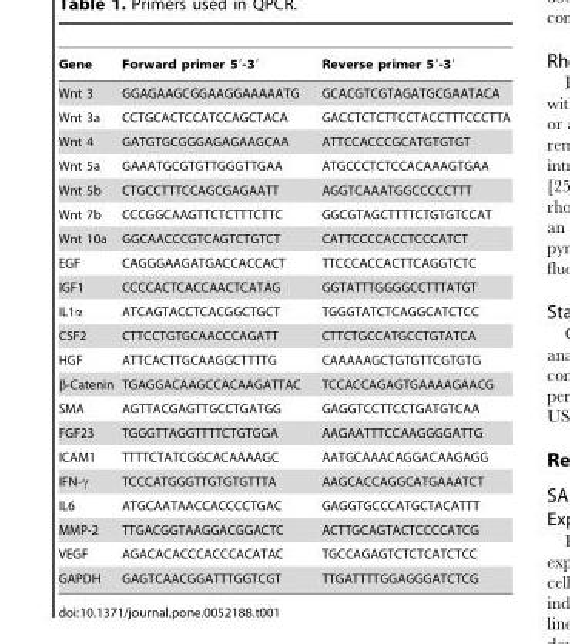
<table><thead><tr><td>Gene</td><td>Forward primer 5′-3′</td><td>Reverse primer 5′-3′</td></tr></thead><tbody><tr><td>Wnt 3</td><td>GGAGAAGCGGAAGGAAAAATG</td><td>GCACGTCGTAGATGCGAATACA</td></tr><tr><td>Wnt 3a</td><td>CCTGCACTCCATCCAGCTACA</td><td>GACCTCTCTTCCTACCTTTCCCTTA</td></tr><tr><td>Wnt 4</td><td>GATGTGCGGGAGAGAAGCAA</td><td>ATTCCACCCGCATGTGTGT</td></tr><tr><td>Wnt 5a</td><td>GAAATGCGTGTTGGGTTGAA</td><td>ATGCCCTCTCCACAAAGTGAA</td></tr><tr><td>Wnt 5b</td><td>CTGCCTTTCCAGCGAGAATT</td><td>AGGTCAAATGGCCCCCTTT</td></tr><tr><td>Wnt 7b</td><td>CCCGGCAAGTTCTCTTTCTTC</td><td>GGCGTAGCTTTTCTGTGTCCAT</td></tr><tr><td>Wnt 10a</td><td>GGCAACCCGTCAGTCTGTCT</td><td>CATTCCCCACCTCCCATCT</td></tr><tr><td>EGF</td><td>CAGGGAAGATGACCACCACT</td><td>TTCCCACCACTTCAGGTCTC</td></tr><tr><td>IGF1</td><td>CCCCACTCACCAACTCATAG</td><td>GGTATTTGGGGCCTTTATGT</td></tr><tr><td>IL1α</td><td>ATCAGTACCTCACGGCTGCT</td><td>TGGGTATCTCAGGCATCTCC</td></tr><tr><td>CSF2</td><td>CTTCCTGTGCAACCCAGATT</td><td>CTTCTGCCATGCCTGTATCA</td></tr><tr><td>HGF</td><td>ATTCACTTGCAAGGCTTTTG</td><td>CAAAAAGCTGTGTTCGTGTG</td></tr><tr><td>β-Catenin</td><td>TGAGGACAAGCCACAAGATTAC</td><td>TCCACCAGAGTGAAAAGAACG</td></tr><tr><td>SMA</td><td>AGTTACGAGTTGCCTGATGG</td><td>GAGGTCCTTCCTGATGTCAA</td></tr><tr><td>FGF23</td><td>TGGGTTAGGTTTTCTGTGGA</td><td>AAGAATTTCCAAGGGGATTG</td></tr><tr><td>ICAM1</td><td>TTTTCTATCGGCACAAAAGC</td><td>AATGCAAACAGGACAAGAGG</td></tr><tr><td>IFN-γ</td><td>TCCCATGGGTTGTGTGTTTA</td><td>AAGCACCAGGCATGAAATCT</td></tr><tr><td>IL6</td><td>ATGCAATAACCACCCCTGAC</td><td>GAGGTGCCCATGCTACATTT</td></tr><tr><td>MMP-2</td><td>TTGACGGTAAGGACGGACTC</td><td>ACTTGCAGTACTCCCCATCG</td></tr><tr><td>VEGF</td><td>AGACACACCCACCCACATAC</td><td>TGCCAGAGTCTCTCATCTCC</td></tr><tr><td>GAPDH</td><td>GAGTCAACGGATTTGGTCGT</td><td>TTGATTTTGGAGGGATCTCG</td></tr></tbody></table>